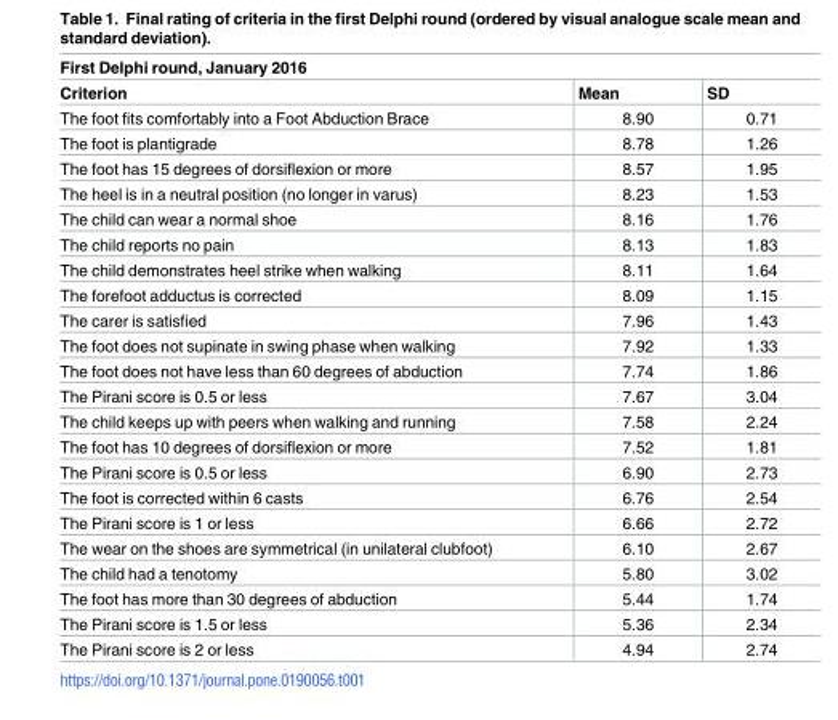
<table><thead><tr><td colspan="3">First Delphi round, January 2016</td></tr><tr><td>Criterion</td><td>Mean</td><td>SD</td></tr></thead><tbody><tr><td>The foot fits comfortably into a Foot Abduction Brace</td><td>8.90</td><td>0.71</td></tr><tr><td>The foot is plantigrade</td><td>8.78</td><td>1.26</td></tr><tr><td>The foot has 15 degrees of dorsiflexion or more</td><td>8.57</td><td>1.95</td></tr><tr><td>The heel is in a neutral position (no longer in varus)</td><td>8.23</td><td>1.53</td></tr><tr><td>The child can wear a normal shoe</td><td>8.16</td><td>1.76</td></tr><tr><td>The child reports no pain</td><td>8.13</td><td>1.83</td></tr><tr><td>The child demonstrates heel strike when walking</td><td>8.11</td><td>1.64</td></tr><tr><td>The forefoot adductus is corrected</td><td>8.09</td><td>1.15</td></tr><tr><td>The carer is satisfied</td><td>7.96</td><td>1.43</td></tr><tr><td>The foot does not supinate in swing phase when walking</td><td>7.92</td><td>1.33</td></tr><tr><td>The foot does not have less than 60 degrees of abduction</td><td>7.74</td><td>1.86</td></tr><tr><td>The Pirani score is 0.5 or less</td><td>7.67</td><td>3.04</td></tr><tr><td>The child keeps up with peers when walking and running</td><td>7.58</td><td>2.24</td></tr><tr><td>The foot has 10 degrees of dorsiflexion or more</td><td>7.52</td><td>1.81</td></tr><tr><td>The Pirani score is 0.5 or less</td><td>6.90</td><td>2.73</td></tr><tr><td>The foot is corrected within 6 casts</td><td>6.76</td><td>2.54</td></tr><tr><td>The Pirani score is 1 or less</td><td>6.66</td><td>2.72</td></tr><tr><td>The wear on the shoes are symmetrical (in unilateral clubfoot)</td><td>6.10</td><td>2.67</td></tr><tr><td>The child had a tenotomy</td><td>5.80</td><td>3.02</td></tr><tr><td>The foot has more than 30 degrees of abduction</td><td>5.44</td><td>1.74</td></tr><tr><td>The Pirani score is 1.5 or less</td><td>5.36</td><td>2.34</td></tr><tr><td>The Pirani score is 2 or less</td><td>4.94</td><td>2.74</td></tr></tbody></table>